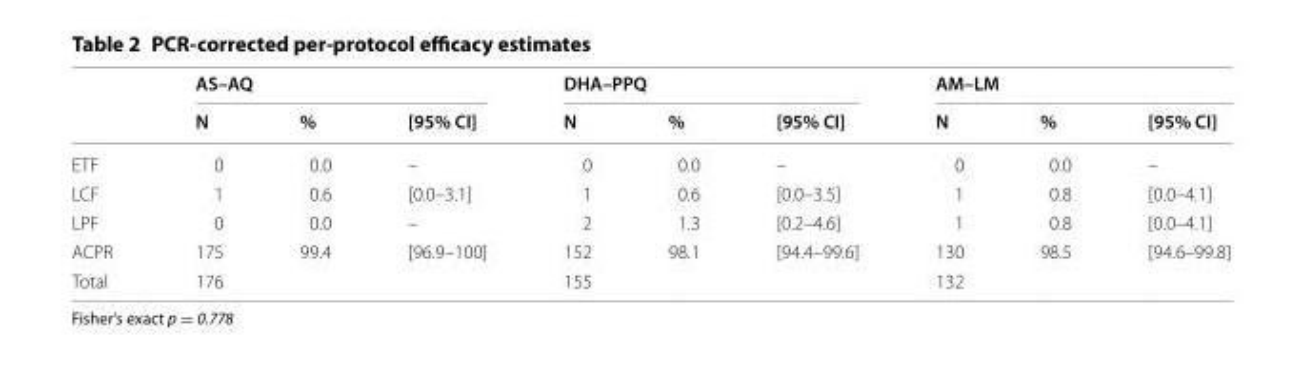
<table><thead><tr><td rowspan="2"></td><td colspan="3">AS–AQ</td><td colspan="3">DHA–PPQ</td><td colspan="3">AM–LM</td></tr><tr><td>N</td><td>%</td><td>[95% CI]</td><td>N</td><td>%</td><td>[95% CI]</td><td>N</td><td>%</td><td>[95% CI]</td></tr></thead><tbody><tr><td>ETF</td><td>0</td><td>0.0</td><td>–</td><td>0</td><td>0.0</td><td>–</td><td>0</td><td>0.0</td><td>–</td></tr><tr><td>LCF</td><td>1</td><td>0.6</td><td>[0.0–3.1]</td><td>1</td><td>0.6</td><td>[0.0–3.5]</td><td>1</td><td>0.8</td><td>[0.0–4.1]</td></tr><tr><td>LPF</td><td>0</td><td>0.0</td><td>–</td><td>2</td><td>1.3</td><td>[0.2–4.6]</td><td>1</td><td>0.8</td><td>[0.0–4.1]</td></tr><tr><td>ACPR</td><td>175</td><td>99.4</td><td>[96.9–100]</td><td>152</td><td>98.1</td><td>[94.4–99.6]</td><td>130</td><td>98.5</td><td>[94.6–99.8]</td></tr><tr><td>Total</td><td>176</td><td></td><td></td><td>155</td><td></td><td></td><td>132</td><td></td><td></td></tr></tbody></table>